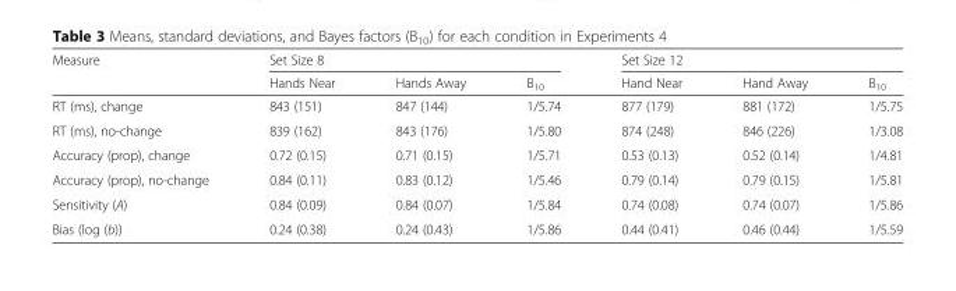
<table><thead><tr><td rowspan="2">Measure</td><td colspan="3">Set Size 8</td><td colspan="3">Set Size 12</td></tr><tr><td>Hands Near</td><td>Hands Away</td><td>B<sub>10</sub></td><td>Hand Near</td><td>Hand Away</td><td>B<sub>10</sub></td></tr></thead><tbody><tr><td>RT (ms), change</td><td>843 (151)</td><td>847 (144)</td><td>1/5.74</td><td>877 (179)</td><td>881 (172)</td><td>1/5.75</td></tr><tr><td>RT (ms), no-change</td><td>839 (162)</td><td>843 (176)</td><td>1/5.80</td><td>874 (248)</td><td>846 (226)</td><td>1/3.08</td></tr><tr><td>Accuracy (prop), change</td><td>0.72 (0.15)</td><td>0.71 (0.15)</td><td>1/5.71</td><td>0.53 (0.13)</td><td>0.52 (0.14)</td><td>1/4.81</td></tr><tr><td>Accuracy (prop), no-change</td><td>0.84 (0.11)</td><td>0.83 (0.12)</td><td>1/5.46</td><td>0.79 (0.14)</td><td>0.79 (0.15)</td><td>1/5.81</td></tr><tr><td>Sensitivity (A)</td><td>0.84 (0.09)</td><td>0.84 (0.07)</td><td>1/5.84</td><td>0.74 (0.08)</td><td>0.74 (0.07)</td><td>1/5.86</td></tr><tr><td>Bias (log (b))</td><td>0.24 (0.38)</td><td>0.24 (0.43)</td><td>1/5.86</td><td>0.44 (0.41)</td><td>0.46 (0.44)</td><td>1/5.59</td></tr></tbody></table>